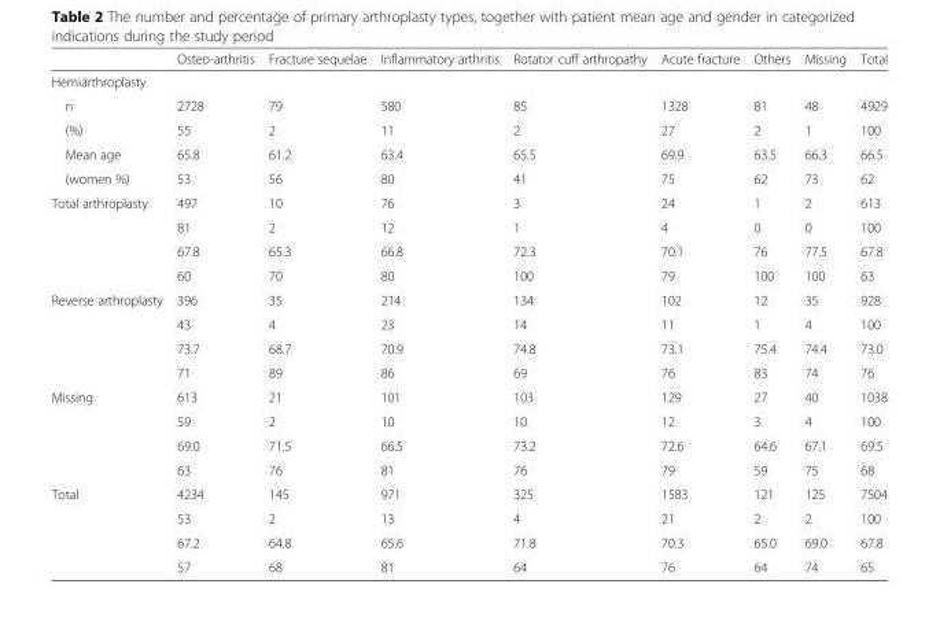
<table><thead><tr><td></td><td>Osteo-arthritis</td><td>Fracture sequelae</td><td>Inflammatory arthritis</td><td>Rotator cuff arthropathy</td><td>Acute fracture</td><td>Others</td><td>Missing</td><td>Total</td></tr></thead><tbody><tr><td colspan="9">Hemiarthroplasty</td></tr><tr><td>n</td><td>2728</td><td>79</td><td>580</td><td>85</td><td>1328</td><td>81</td><td>48</td><td>4929</td></tr><tr><td>(%)</td><td>55</td><td>2</td><td>11</td><td>2</td><td>27</td><td>2</td><td>1</td><td>100</td></tr><tr><td>Mean age</td><td>65.8</td><td>61.2</td><td>63.4</td><td>65.5</td><td>69.9</td><td>63.5</td><td>66.3</td><td>66.5</td></tr><tr><td>(women %)</td><td>53</td><td>56</td><td>80</td><td>41</td><td>75</td><td>62</td><td>73</td><td>62</td></tr><tr><td rowspan="4">Total arthroplasty</td><td>497</td><td>10</td><td>76</td><td>3</td><td>24</td><td>1</td><td>2</td><td>613</td></tr><tr><td>81</td><td>2</td><td>12</td><td>1</td><td>4</td><td>0</td><td>0</td><td>100</td></tr><tr><td>67.8</td><td>65.3</td><td>66.8</td><td>72.3</td><td>70.1</td><td>76</td><td>77.5</td><td>67.8</td></tr><tr><td>60</td><td>70</td><td>80</td><td>100</td><td>79</td><td>100</td><td>100</td><td>63</td></tr><tr><td rowspan="4">Reverse arthroplasty</td><td>396</td><td>35</td><td>214</td><td>134</td><td>102</td><td>12</td><td>35</td><td>928</td></tr><tr><td>43</td><td>4</td><td>23</td><td>14</td><td>11</td><td>1</td><td>4</td><td>100</td></tr><tr><td>73.7</td><td>68.7</td><td>70.9</td><td>74.8</td><td>73.1</td><td>75.4</td><td>74.4</td><td>73.0</td></tr><tr><td>71</td><td>89</td><td>86</td><td>69</td><td>76</td><td>83</td><td>74</td><td>76</td></tr><tr><td rowspan="4">Missing</td><td>613</td><td>21</td><td>101</td><td>103</td><td>129</td><td>27</td><td>40</td><td>1038</td></tr><tr><td>59</td><td>2</td><td>10</td><td>10</td><td>12</td><td>3</td><td>4</td><td>100</td></tr><tr><td>69.0</td><td>71.5</td><td>66.5</td><td>73.2</td><td>72.6</td><td>64.6</td><td>67.1</td><td>69.5</td></tr><tr><td>63</td><td>76</td><td>81</td><td>76</td><td>79</td><td>59</td><td>75</td><td>68</td></tr><tr><td rowspan="4">Total</td><td>4234</td><td>145</td><td>971</td><td>325</td><td>1583</td><td>121</td><td>125</td><td>7504</td></tr><tr><td>53</td><td>2</td><td>13</td><td>4</td><td>21</td><td>2</td><td>2</td><td>100</td></tr><tr><td>67.2</td><td>64.8</td><td>65.6</td><td>71.8</td><td>70.3</td><td>65.0</td><td>69.0</td><td>67.8</td></tr><tr><td>57</td><td>68</td><td>81</td><td>64</td><td>76</td><td>64</td><td>74</td><td>65</td></tr></tbody></table>